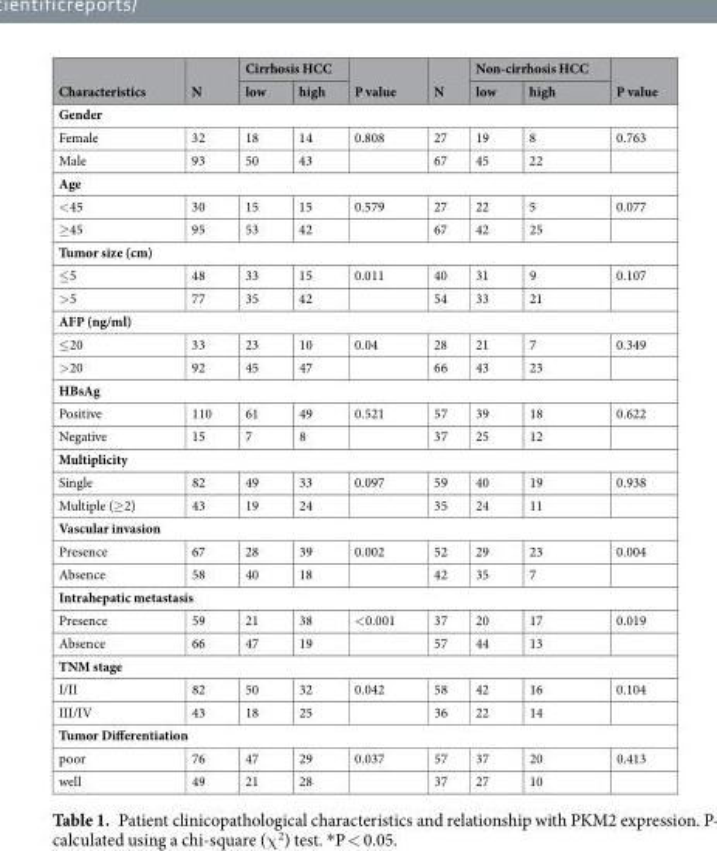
<table><thead><tr><td rowspan="2">Characteristics</td><td rowspan="2">N</td><td colspan="2">Cirrhosis HCC</td><td rowspan="2">P value</td><td rowspan="2">N</td><td colspan="2">Non-cirrhosis HCC</td><td rowspan="2">P value</td></tr><tr><td>low</td><td>high</td><td>low</td><td>high</td></tr></thead><tbody><tr><td colspan="9">Gender</td></tr><tr><td>Female</td><td>32</td><td>18</td><td>14</td><td>0.808</td><td>27</td><td>19</td><td>8</td><td>0.763</td></tr><tr><td>Male</td><td>93</td><td>50</td><td>43</td><td></td><td>67</td><td>45</td><td>22</td><td></td></tr><tr><td colspan="9">Age</td></tr><tr><td>&lt;45</td><td>30</td><td>15</td><td>15</td><td>0.579</td><td>27</td><td>22</td><td>5</td><td>0.077</td></tr><tr><td>≥45</td><td>95</td><td>53</td><td>42</td><td></td><td>67</td><td>42</td><td>25</td><td></td></tr><tr><td colspan="9">Tumor size (cm)</td></tr><tr><td>≤5</td><td>48</td><td>33</td><td>15</td><td>0.011</td><td>40</td><td>31</td><td>9</td><td>0.107</td></tr><tr><td>&gt;5</td><td>77</td><td>35</td><td>42</td><td></td><td>54</td><td>33</td><td>21</td><td></td></tr><tr><td colspan="9">AFP (ng/ml)</td></tr><tr><td>≤20</td><td>33</td><td>23</td><td>10</td><td>0.04</td><td>28</td><td>21</td><td>7</td><td>0.349</td></tr><tr><td>&gt;20</td><td>92</td><td>45</td><td>47</td><td></td><td>66</td><td>43</td><td>23</td><td></td></tr><tr><td colspan="9">HBsAg</td></tr><tr><td>Positive</td><td>110</td><td>61</td><td>49</td><td>0.521</td><td>57</td><td>39</td><td>18</td><td>0.622</td></tr><tr><td>Negative</td><td>15</td><td>7</td><td>8</td><td></td><td>37</td><td>25</td><td>12</td><td></td></tr><tr><td colspan="9">Multiplicity</td></tr><tr><td>Single</td><td>82</td><td>49</td><td>33</td><td>0.097</td><td>59</td><td>40</td><td>19</td><td>0.938</td></tr><tr><td>Multiple (≥2)</td><td>43</td><td>19</td><td>24</td><td></td><td>35</td><td>24</td><td>11</td><td></td></tr><tr><td colspan="9">Vascular invasion</td></tr><tr><td>Presence</td><td>67</td><td>28</td><td>39</td><td>0.002</td><td>52</td><td>29</td><td>23</td><td>0.004</td></tr><tr><td>Absence</td><td>58</td><td>40</td><td>18</td><td></td><td>42</td><td>35</td><td>7</td><td></td></tr><tr><td colspan="9">Intrahepatic metastasis</td></tr><tr><td>Presence</td><td>59</td><td>21</td><td>38</td><td>&lt;0.001</td><td>37</td><td>20</td><td>17</td><td>0.019</td></tr><tr><td>Absence</td><td>66</td><td>47</td><td>19</td><td></td><td>57</td><td>44</td><td>13</td><td></td></tr><tr><td colspan="9">TNM stage</td></tr><tr><td>I/II</td><td>82</td><td>50</td><td>32</td><td>0.042</td><td>58</td><td>42</td><td>16</td><td>0.104</td></tr><tr><td>III/IV</td><td>43</td><td>18</td><td>25</td><td></td><td>36</td><td>22</td><td>14</td><td></td></tr><tr><td colspan="9">Tumor Differentiation</td></tr><tr><td>poor</td><td>76</td><td>47</td><td>29</td><td>0.037</td><td>57</td><td>37</td><td>20</td><td>0.413</td></tr><tr><td>well</td><td>49</td><td>21</td><td>28</td><td></td><td>37</td><td>27</td><td>10</td><td></td></tr></tbody></table>